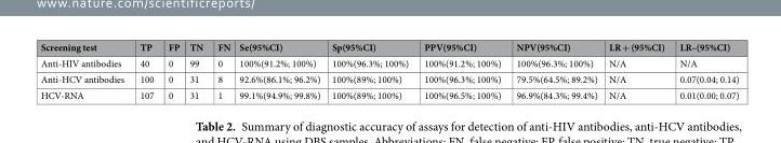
<table><thead><tr><td>Screening test</td><td>TP</td><td>FP</td><td>TN</td><td>FN</td><td>Se(95%CI)</td><td>Sp(95%CI)</td><td>PPV(95%CI)</td><td>NPV(95%CI)</td><td>LR + (95%CI)</td><td>LR–(95%CI)</td></tr></thead><tbody><tr><td>Anti-HIV antibodies</td><td>40</td><td>0</td><td>99</td><td>0</td><td>100%(91.2%; 100%)</td><td>100%(96.3%; 100%)</td><td>100%(91.2%; 100%)</td><td>100%(96.3%; 100%)</td><td>N/A</td><td>N/A</td></tr><tr><td>Anti-HCV antibodies</td><td>100</td><td>0</td><td>31</td><td>8</td><td>92.6%(86.1%; 96.2%)</td><td>100%(89%; 100%)</td><td>100%(96.3%; 100%)</td><td>79.5%(64.5%; 89.2%)</td><td>N/A</td><td>0.07(0.04; 0.14)</td></tr><tr><td>HCV-RNA</td><td>107</td><td>0</td><td>31</td><td>1</td><td>99.1%(94.9%; 99.8%)</td><td>100%(89%; 100%)</td><td>100%(96.5%; 100%)</td><td>96.9%(84.3%; 99.4%)</td><td>N/A</td><td>0.01(0.00; 0.07)</td></tr></tbody></table>